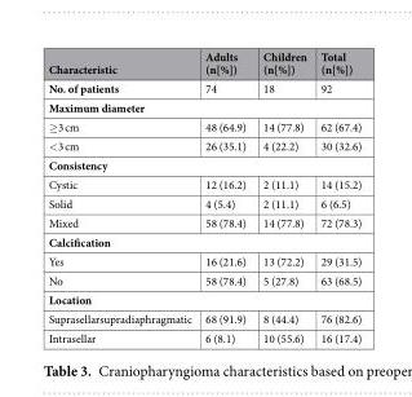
<table><thead><tr><td>Characteristic</td><td>Adults (n[%])</td><td>Children (n[%])</td><td>Total (n[%])</td></tr></thead><tbody><tr><td>No. of patients</td><td>74</td><td>18</td><td>92</td></tr><tr><td colspan="4">Maximum diameter</td></tr><tr><td>≥3 cm</td><td>48 (64.9)</td><td>14 (77.8)</td><td>62 (67.4)</td></tr><tr><td>&lt;3 cm</td><td>26 (35.1)</td><td>4 (22.2)</td><td>30 (32.6)</td></tr><tr><td colspan="4">Consistency</td></tr><tr><td>Cystic</td><td>12 (16.2)</td><td>2 (11.1)</td><td>14 (15.2)</td></tr><tr><td>Solid</td><td>4 (5.4)</td><td>2 (11.1)</td><td>6 (6.5)</td></tr><tr><td>Mixed</td><td>58 (78.4)</td><td>14 (77.8)</td><td>72 (78.3)</td></tr><tr><td colspan="4">Calcification</td></tr><tr><td>Yes</td><td>16 (21.6)</td><td>13 (72.2)</td><td>29 (31.5)</td></tr><tr><td>No</td><td>58 (78.4)</td><td>5 (27.8)</td><td>63 (68.5)</td></tr><tr><td colspan="4">Location</td></tr><tr><td>Suprasellarsupradiaphragmatic</td><td>68 (91.9)</td><td>8 (44.4)</td><td>76 (82.6)</td></tr><tr><td>Intrasellar</td><td>6 (8.1)</td><td>10 (55.6)</td><td>16 (17.4)</td></tr></tbody></table>